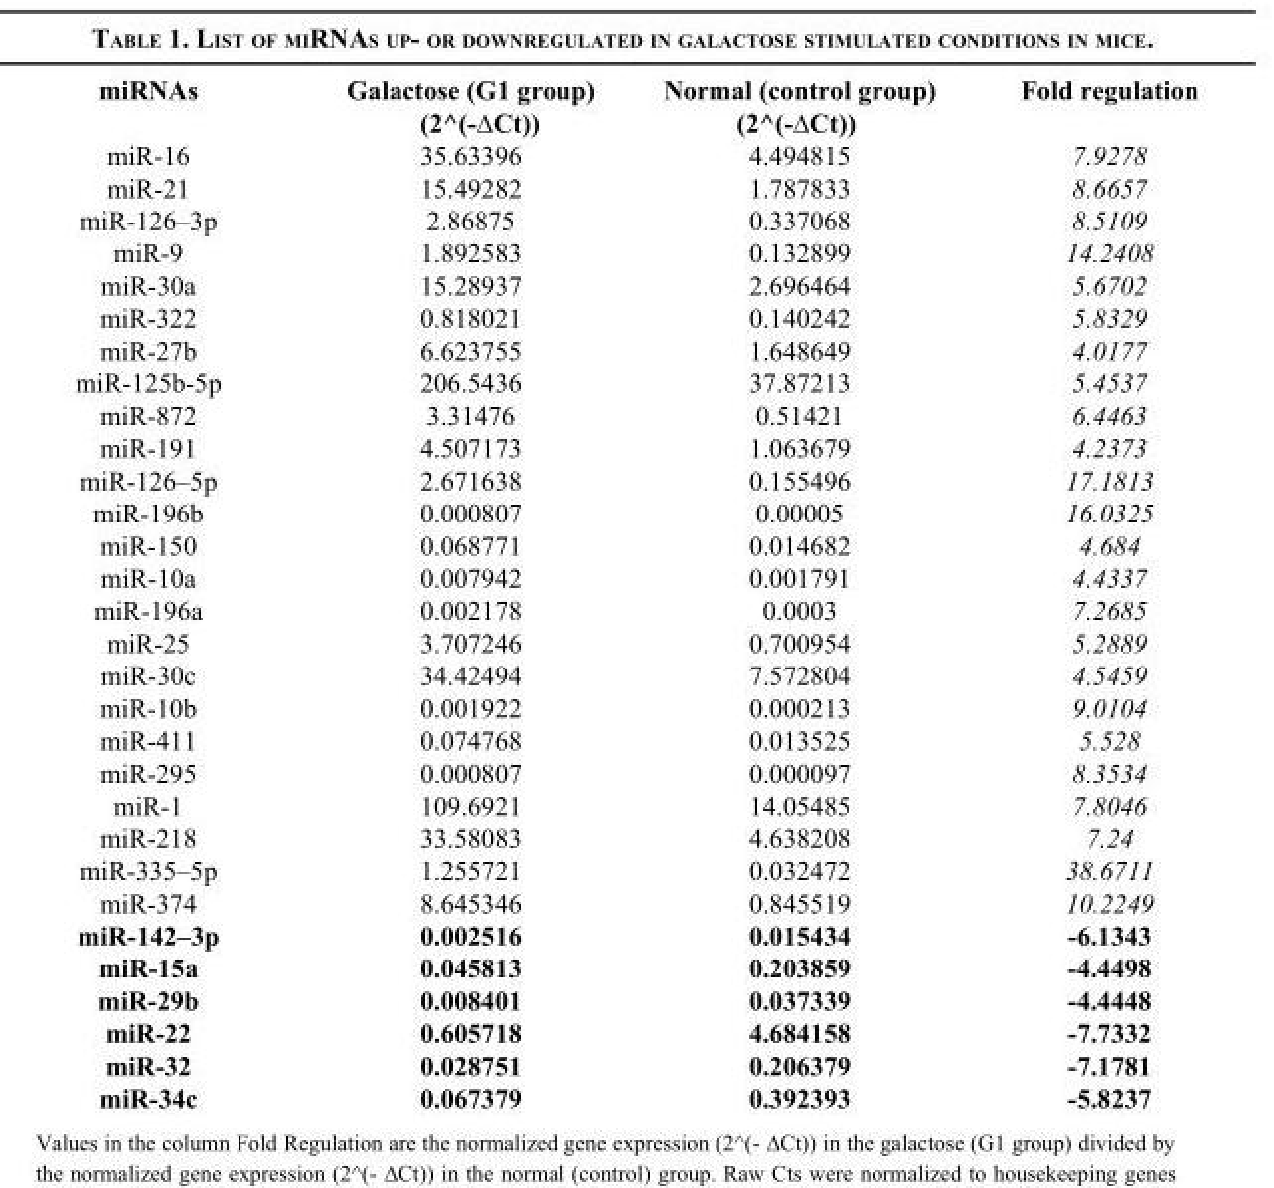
<table><thead><tr><td>miRNAs</td><td>Galactose (G1 group) (2^(-∆Ct))</td><td>Normal (control group) (2^(-∆Ct))</td><td>Fold regulation</td></tr></thead><tbody><tr><td>miR-16</td><td>35.63396</td><td>4.494815</td><td>7.9278</td></tr><tr><td>miR-21</td><td>15.49282</td><td>1.787833</td><td>8.6657</td></tr><tr><td>miR-126–3p</td><td>2.86875</td><td>0.337068</td><td>8.5109</td></tr><tr><td>miR-9</td><td>1.892583</td><td>0.132899</td><td>14.2408</td></tr><tr><td>miR-30a</td><td>15.28937</td><td>2.696464</td><td>5.6702</td></tr><tr><td>miR-322</td><td>0.818021</td><td>0.140242</td><td>5.8329</td></tr><tr><td>miR-27b</td><td>6.623755</td><td>1.648649</td><td>4.0177</td></tr><tr><td>miR-125b-5p</td><td>206.5436</td><td>37.87213</td><td>5.4537</td></tr><tr><td>miR-872</td><td>3.31476</td><td>0.51421</td><td>6.4463</td></tr><tr><td>miR-191</td><td>4.507173</td><td>1.063679</td><td>4.2373</td></tr><tr><td>miR-126–5p</td><td>2.671638</td><td>0.155496</td><td>17.1813</td></tr><tr><td>miR-196b</td><td>0.000807</td><td>0.00005</td><td>16.0325</td></tr><tr><td>miR-150</td><td>0.068771</td><td>0.014682</td><td>4.684</td></tr><tr><td>miR-10a</td><td>0.007942</td><td>0.001791</td><td>4.4337</td></tr><tr><td>miR-196a</td><td>0.002178</td><td>0.0003</td><td>7.2685</td></tr><tr><td>miR-25</td><td>3.707246</td><td>0.700954</td><td>5.2889</td></tr><tr><td>miR-30c</td><td>34.42494</td><td>7.572804</td><td>4.5459</td></tr><tr><td>miR-10b</td><td>0.001922</td><td>0.000213</td><td>9.0104</td></tr><tr><td>miR-411</td><td>0.074768</td><td>0.013525</td><td>5.528</td></tr><tr><td>miR-295</td><td>0.000807</td><td>0.000097</td><td>8.3534</td></tr><tr><td>miR-1</td><td>109.6921</td><td>14.05485</td><td>7.8046</td></tr><tr><td>miR-218</td><td>33.58083</td><td>4.638208</td><td>7.24</td></tr><tr><td>miR-335–5p</td><td>1.255721</td><td>0.032472</td><td>38.6711</td></tr><tr><td>miR-374</td><td>8.645346</td><td>0.845519</td><td>10.2249</td></tr><tr><td>miR-142–3p</td><td>0.002516</td><td>0.015434</td><td>-6.1343</td></tr><tr><td>miR-15a</td><td>0.045813</td><td>0.203859</td><td>-4.4498</td></tr><tr><td>miR-29b</td><td>0.008401</td><td>0.037339</td><td>-4.4448</td></tr><tr><td>miR-22</td><td>0.605718</td><td>4.684158</td><td>-7.7332</td></tr><tr><td>miR-32</td><td>0.028751</td><td>0.206379</td><td>-7.1781</td></tr><tr><td>miR-34c</td><td>0.067379</td><td>0.392393</td><td>-5.8237</td></tr></tbody></table>